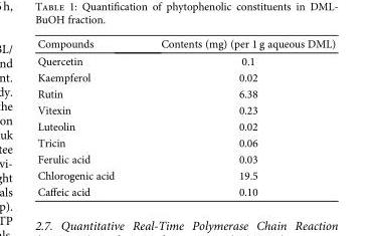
<table><thead><tr><td>Compounds</td><td>Contents (mg) (per 1 g aqueous DML)</td></tr></thead><tbody><tr><td>Quercetin</td><td>0.1</td></tr><tr><td>Kaempferol</td><td>0.02</td></tr><tr><td>Rutin</td><td>6.38</td></tr><tr><td>Vitexin</td><td>0.23</td></tr><tr><td>Luteolin</td><td>0.02</td></tr><tr><td>Tricin</td><td>0.06</td></tr><tr><td>Ferulic acid</td><td>0.03</td></tr><tr><td>Chlorogenic acid</td><td>19.5</td></tr><tr><td>Caffeic acid</td><td>0.10</td></tr></tbody></table>